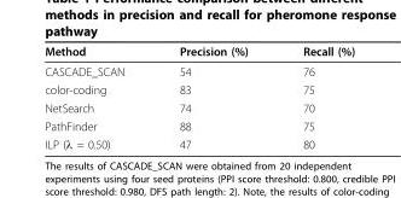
<table><thead><tr><td>Method</td><td>Precision (%)</td><td>Recall (%)</td></tr></thead><tbody><tr><td>CASCADE_SCAN</td><td>54</td><td>76</td></tr><tr><td>color-coding</td><td>83</td><td>75</td></tr><tr><td>NetSearch</td><td>74</td><td>70</td></tr><tr><td>PathFinder</td><td>88</td><td>75</td></tr><tr><td>ILP (λ = 0.50)</td><td>47</td><td>80</td></tr></tbody></table>